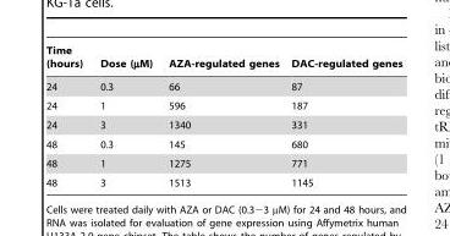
<table><thead><tr><td>Time (hours)</td><td>Dose (µM)</td><td>AZA-regulated genes</td><td>DAC-regulated genes</td></tr></thead><tbody><tr><td>24</td><td>0.3</td><td>66</td><td>87</td></tr><tr><td>24</td><td>1</td><td>596</td><td>187</td></tr><tr><td>24</td><td>3</td><td>1340</td><td>331</td></tr><tr><td>48</td><td>0.3</td><td>145</td><td>680</td></tr><tr><td>48</td><td>1</td><td>1275</td><td>771</td></tr><tr><td>48</td><td>3</td><td>1513</td><td>1145</td></tr></tbody></table>